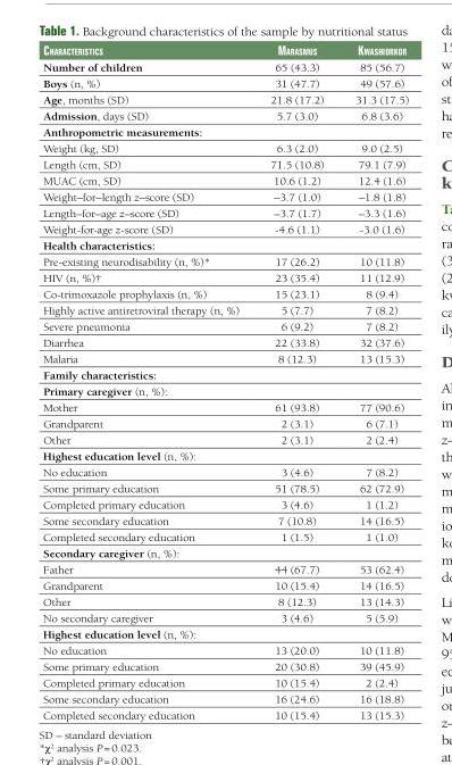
<table><thead><tr><td>CharaCteristiCs</td><td>MarasMus</td><td>KwashiorKor</td></tr></thead><tbody><tr><td>Number of children</td><td>65 (43.3)</td><td>85 (56.7)</td></tr><tr><td>Boys (n, %)</td><td>31 (47.7)</td><td>49 (57.6)</td></tr><tr><td>Age, months (SD)</td><td>21.8 (17.2)</td><td>31.3 (17.5)</td></tr><tr><td>Admission, days (SD)</td><td>5.7 (3.0)</td><td>6.8 (3.6)</td></tr><tr><td colspan="3">Anthropometric measurements:</td></tr><tr><td>Weight (kg, SD)</td><td>6.3 (2.0)</td><td>9.0 (2.5)</td></tr><tr><td>Length (cm, SD)</td><td>71.5 (10.8)</td><td>79.1 (7.9)</td></tr><tr><td>MUAC (cm, SD)</td><td>10.6 (1.2)</td><td>12.4 (1.6)</td></tr><tr><td>Weight–for–length z–score (SD)</td><td>–3.7 (1.0)</td><td>–1.8 (1.8)</td></tr><tr><td>Length–for–age z–score (SD)</td><td>–3.7 (1.7)</td><td>–3.3 (1.6)</td></tr><tr><td>Weight-for-age z-score (SD)</td><td>-4.6 (1.1)</td><td>-3.0 (1.6)</td></tr><tr><td colspan="3">Health characteristics:</td></tr><tr><td>Pre-existing neurodisability (n, %)*</td><td>17 (26.2)</td><td>10 (11.8)</td></tr><tr><td>HIV (n, %)†</td><td>23 (35.4)</td><td>11 (12.9)</td></tr><tr><td>Co-trimoxazole prophylaxis (n, %)</td><td>15 (23.1)</td><td>8 (9.4)</td></tr><tr><td>Highly active antiretroviral therapy (n, %)</td><td>5 (7.7)</td><td>7 (8.2)</td></tr><tr><td>Severe pneumonia</td><td>6 (9.2)</td><td>7 (8.2)</td></tr><tr><td>Diarrhea</td><td>22 (33.8)</td><td>32 (37.6)</td></tr><tr><td>Malaria</td><td>8 (12.3)</td><td>13 (15.3)</td></tr><tr><td colspan="3">Family characteristics:</td></tr><tr><td colspan="3">Primary caregiver (n, %):</td></tr><tr><td>Mother</td><td>61 (93.8)</td><td>77 (90.6)</td></tr><tr><td>Grandparent</td><td>2 (3.1)</td><td>6 (7.1)</td></tr><tr><td>Other</td><td>2 (3.1)</td><td>2 (2.4)</td></tr><tr><td colspan="3">Highest education level (n, %):</td></tr><tr><td>No education</td><td>3 (4.6)</td><td>7 (8.2)</td></tr><tr><td>Some primary education</td><td>51 (78.5)</td><td>62 (72.9)</td></tr><tr><td>Completed primary education</td><td>3 (4.6)</td><td>1 (1.2)</td></tr><tr><td>Some secondary education</td><td>7 (10.8)</td><td>14 (16.5)</td></tr><tr><td>Completed secondary education</td><td>1 (1.5)</td><td>1 (1.0)</td></tr><tr><td colspan="3">Secondary caregiver (n, %):</td></tr><tr><td>Father</td><td>44 (67.7)</td><td>53 (62.4)</td></tr><tr><td>Grandparent</td><td>10 (15.4)</td><td>14 (16.5)</td></tr><tr><td>Other</td><td>8 (12.3)</td><td>13 (14.3)</td></tr><tr><td>No secondary caregiver</td><td>3 (4.6)</td><td>5 (5.9)</td></tr><tr><td colspan="3">Highest education level (n, %):</td></tr><tr><td>No education</td><td>13 (20.0)</td><td>10 (11.8)</td></tr><tr><td>Some primary education</td><td>20 (30.8)</td><td>39 (45.9)</td></tr><tr><td>Completed primary education</td><td>10 (15.4)</td><td>2 (2.4)</td></tr><tr><td>Some secondary education</td><td>16 (24.6)</td><td>16 (18.8)</td></tr><tr><td>Completed secondary education</td><td>10 (15.4)</td><td>13 (15.3)</td></tr></tbody></table>